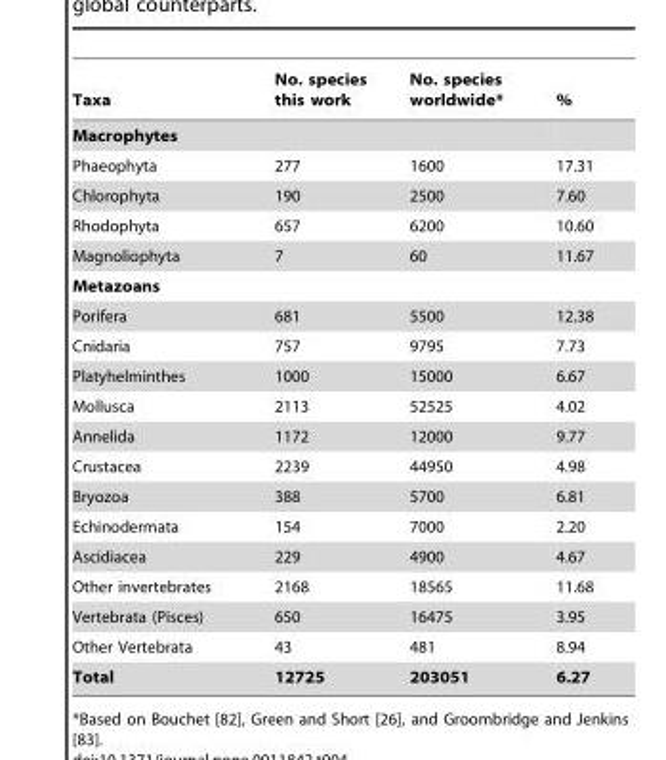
<table><thead><tr><td>Taxa</td><td>No. species this work</td><td>No. species worldwide*</td><td>%</td></tr></thead><tbody><tr><td colspan="4">Macrophytes</td></tr><tr><td>Phaeophyta</td><td>277</td><td>1600</td><td>17.31</td></tr><tr><td>Chlorophyta</td><td>190</td><td>2500</td><td>7.60</td></tr><tr><td>Rhodophyta</td><td>657</td><td>6200</td><td>10.60</td></tr><tr><td>Magnoliophyta</td><td>7</td><td>60</td><td>11.67</td></tr><tr><td colspan="4">Metazoans</td></tr><tr><td>Porifera</td><td>681</td><td>5500</td><td>12.38</td></tr><tr><td>Cnidaria</td><td>757</td><td>9795</td><td>7.73</td></tr><tr><td>Platyhelminthes</td><td>1000</td><td>15000</td><td>6.67</td></tr><tr><td>Mollusca</td><td>2113</td><td>52525</td><td>4.02</td></tr><tr><td>Annelida</td><td>1172</td><td>12000</td><td>9.77</td></tr><tr><td>Crustacea</td><td>2239</td><td>44950</td><td>4.98</td></tr><tr><td>Bryozoa</td><td>388</td><td>5700</td><td>6.81</td></tr><tr><td>Echinodermata</td><td>154</td><td>7000</td><td>2.20</td></tr><tr><td>Ascidiacea</td><td>229</td><td>4900</td><td>4.67</td></tr><tr><td>Other invertebrates</td><td>2168</td><td>18565</td><td>11.68</td></tr><tr><td>Vertebrata (Pisces)</td><td>650</td><td>16475</td><td>3.95</td></tr><tr><td>Other Vertebrata</td><td>43</td><td>481</td><td>8.94</td></tr><tr><td>Total</td><td>12725</td><td>203051</td><td>6.27</td></tr></tbody></table>